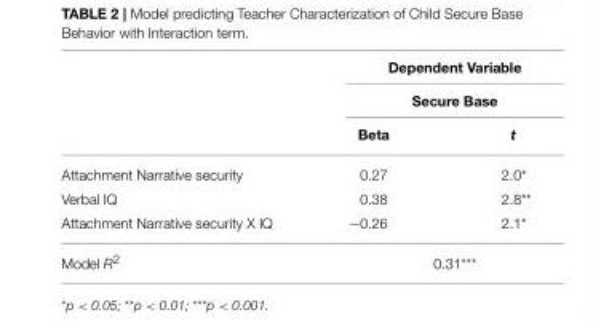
<table><thead><tr><td rowspan="3"></td><td rowspan="2" colspan="2">Dependent Variable Secure Base</td></tr><tr></tr><tr><td>Beta</td><td>t</td></tr></thead><tbody><tr><td>Attachment Narrative security</td><td>0.27</td><td>2.0*</td></tr><tr><td>Verbal IQ</td><td>0.38</td><td>2.8**</td></tr><tr><td>Attachment Narrative security X IQ</td><td>−0.26</td><td>2.1*</td></tr><tr><td>Model R<sup>2</sup></td><td colspan="2">0.31***</td></tr></tbody></table>